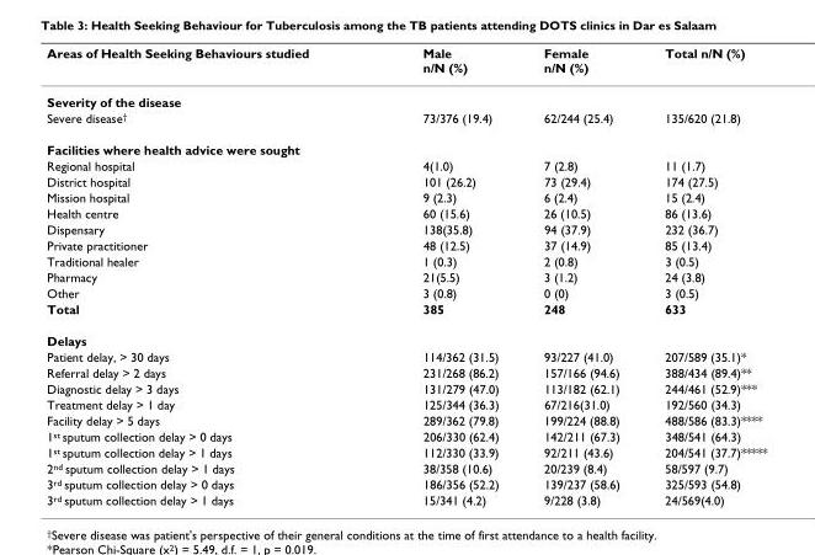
<table><thead><tr><td>Areas of Health Seeking Behaviours studied</td><td>Male n/N (%)</td><td>Female n/N (%)</td><td>Total n/N (%)</td></tr></thead><tbody><tr><td colspan="4">Severity of the disease</td></tr><tr><td>Severe disease<sup>†</sup></td><td>73/376 (19.4)</td><td>62/244 (25.4)</td><td>135/620 (21.8)</td></tr><tr><td colspan="4">Facilities where health advice were sought</td></tr><tr><td>Regional hospital</td><td>4(1.0)</td><td>7 (2.8)</td><td>11 (1.7)</td></tr><tr><td>District hospital</td><td>101 (26.2)</td><td>73 (29.4)</td><td>174 (27.5)</td></tr><tr><td>Mission hospital</td><td>9 (2.3)</td><td>6 (2.4)</td><td>15 (2.4)</td></tr><tr><td>Health centre</td><td>60 (15.6)</td><td>26 (10.5)</td><td>86 (13.6)</td></tr><tr><td>Dispensary</td><td>138(35.8)</td><td>94 (37.9)</td><td>232 (36.7)</td></tr><tr><td>Private practitioner</td><td>48 (12.5)</td><td>37 (14.9)</td><td>85 (13.4)</td></tr><tr><td>Traditional healer</td><td>1 (0.3)</td><td>2 (0.8)</td><td>3 (0.5)</td></tr><tr><td>Pharmacy</td><td>21(5.5)</td><td>3 (1.2)</td><td>24 (3.8)</td></tr><tr><td>Other</td><td>3 (0.8)</td><td>0 (0)</td><td>3 (0.5)</td></tr><tr><td>Total</td><td>385</td><td>248</td><td>633</td></tr><tr><td colspan="4">Delays</td></tr><tr><td>Patient delay, &gt; 30 days</td><td>114/362 (31.5)</td><td>93/227 (41.0)</td><td>207/589 (35.1)*</td></tr><tr><td>Referral delay &gt; 2 days</td><td>231/268 (86.2)</td><td>157/166 (94.6)</td><td>388/434 (89.4)**</td></tr><tr><td>Diagnostic delay &gt; 3 days</td><td>131/279 (47.0)</td><td>113/182 (62.1)</td><td>244/461 (52.9)***</td></tr><tr><td>Treatment delay &gt; 1 day</td><td>125/344 (36.3)</td><td>67/216(31.0)</td><td>192/560 (34.3)</td></tr><tr><td>Facility delay &gt; 5 days</td><td>289/362 (79.8)</td><td>199/224 (88.8)</td><td>488/586 (83.3)****</td></tr><tr><td>1<sup>st</sup> sputum collection delay &gt; 0 days</td><td>206/330 (62.4)</td><td>142/211 (67.3)</td><td>348/541 (64.3)</td></tr><tr><td>1<sup>st</sup> sputum collection delay &gt; 1 days</td><td>112/330 (33.9)</td><td>92/211 (43.6)</td><td>204/541 (37.7)*****</td></tr><tr><td>2<sup>nd</sup> sputum collection delay &gt; 1 days</td><td>38/358 (10.6)</td><td>20/239 (8.4)</td><td>58/597 (9.7)</td></tr><tr><td>3<sup>rd</sup> sputum collection delay &gt; 0 days</td><td>186/356 (52.2)</td><td>139/237 (58.6)</td><td>325/593 (54.8)</td></tr><tr><td>3<sup>rd</sup> sputum collection delay &gt; 1 days</td><td>15/341 (4.2)</td><td>9/228 (3.8)</td><td>24/569(4.0)</td></tr></tbody></table>